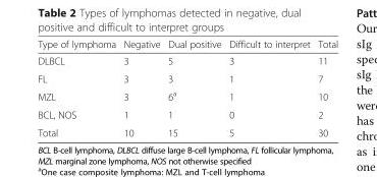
<table><thead><tr><td>Type of lymphoma</td><td>Negative</td><td>Dual positive</td><td>Difficult to interpret</td><td>Total</td></tr></thead><tbody><tr><td>DLBCL</td><td>3</td><td>5</td><td>3</td><td>11</td></tr><tr><td>FL</td><td>3</td><td>3</td><td>1</td><td>7</td></tr><tr><td>MZL</td><td>3</td><td>6<sup>a</sup></td><td>1</td><td>10</td></tr><tr><td>BCL, NOS</td><td>1</td><td>1</td><td>0</td><td>2</td></tr><tr><td>Total</td><td>10</td><td>15</td><td>5</td><td>30</td></tr></tbody></table>